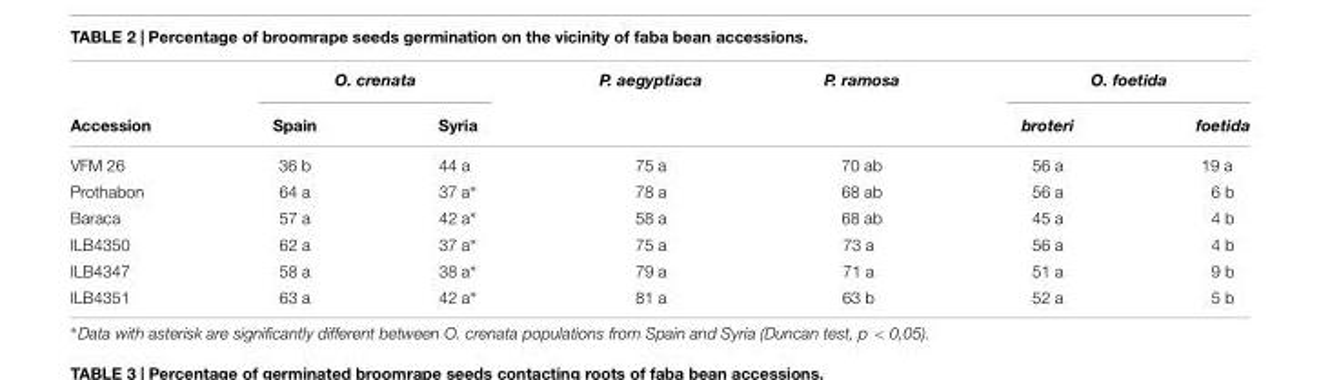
<table><thead><tr><td rowspan="2">Accession</td><td colspan="2">O. crenata</td><td rowspan="2">P. aegyptiaca</td><td rowspan="2">P. ramosa</td><td colspan="2">O. foetida</td></tr><tr><td>Spain</td><td>Syria</td><td>broteri</td><td>foetida</td></tr></thead><tbody><tr><td>VFM 26</td><td>36 b</td><td>44 a</td><td>75 a</td><td>70 ab</td><td>56 a</td><td>19 a</td></tr><tr><td>Prothabon</td><td>64 a</td><td>37 a∗</td><td>78 a</td><td>68 ab</td><td>56 a</td><td>6 b</td></tr><tr><td>Baraca</td><td>57 a</td><td>42 a∗</td><td>58 a</td><td>68 ab</td><td>45 a</td><td>4 b</td></tr><tr><td>ILB4350</td><td>62 a</td><td>37 a∗</td><td>75 a</td><td>73 a</td><td>56 a</td><td>4 b</td></tr><tr><td>ILB4347</td><td>58 a</td><td>38 a∗</td><td>79 a</td><td>71 a</td><td>51 a</td><td>9 b</td></tr><tr><td>ILB4351</td><td>63 a</td><td>42 a∗</td><td>81 a</td><td>63 b</td><td>52 a</td><td>5 b</td></tr></tbody></table>